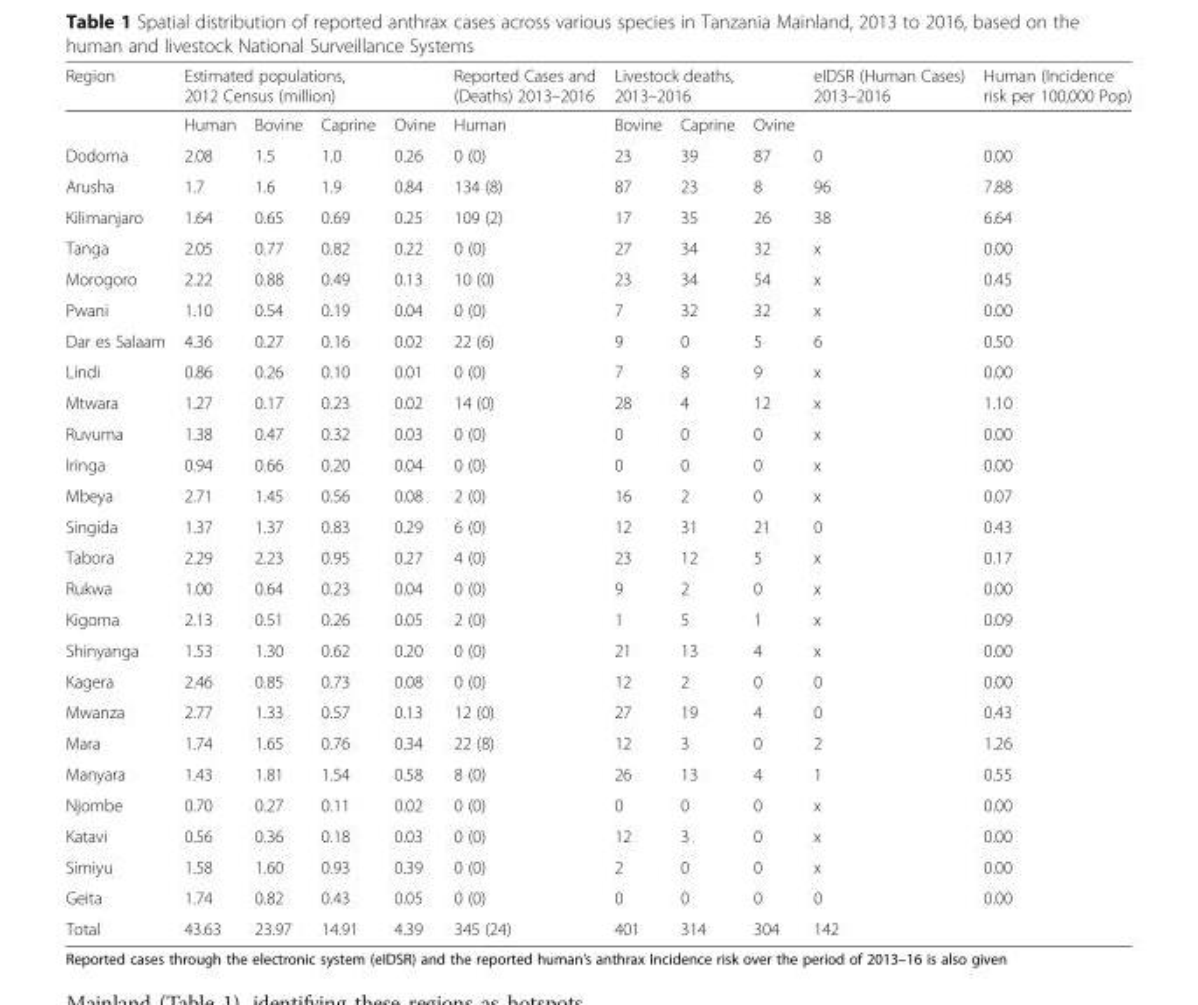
<table><thead><tr><td rowspan="2">Region</td><td colspan="4">Estimated populations, 2012 Census (million)</td><td rowspan="2">Reported Cases and (Deaths) 2013–2016 Human</td><td colspan="3">Livestock deaths, 2013–2016</td><td rowspan="2">eIDSR (Human Cases) 2013–2016</td><td rowspan="2">Human (Incidence risk per 100,000 Pop)</td></tr><tr><td>Human</td><td>Bovine</td><td>Caprine</td><td>Ovine</td><td>Bovine</td><td>Caprine</td><td>Ovine</td></tr></thead><tbody><tr><td>Dodoma</td><td>2.08</td><td>1.5</td><td>1.0</td><td>0.26</td><td>0 (0)</td><td>23</td><td>39</td><td>87</td><td>0</td><td>0.00</td></tr><tr><td>Arusha</td><td>1.7</td><td>1.6</td><td>1.9</td><td>0.84</td><td>134 (8)</td><td>87</td><td>23</td><td>8</td><td>96</td><td>7.88</td></tr><tr><td>Kilimanjaro</td><td>1.64</td><td>0.65</td><td>0.69</td><td>0.25</td><td>109 (2)</td><td>17</td><td>35</td><td>26</td><td>38</td><td>6.64</td></tr><tr><td>Tanga</td><td>2.05</td><td>0.77</td><td>0.82</td><td>0.22</td><td>0 (0)</td><td>27</td><td>34</td><td>32</td><td>x</td><td>0.00</td></tr><tr><td>Morogoro</td><td>2.22</td><td>0.88</td><td>0.49</td><td>0.13</td><td>10 (0)</td><td>23</td><td>34</td><td>54</td><td>x</td><td>0.45</td></tr><tr><td>Pwani</td><td>1.10</td><td>0.54</td><td>0.19</td><td>0.04</td><td>0 (0)</td><td>7</td><td>32</td><td>32</td><td>x</td><td>0.00</td></tr><tr><td>Dar es Salaam</td><td>4.36</td><td>0.27</td><td>0.16</td><td>0.02</td><td>22 (6)</td><td>9</td><td>0</td><td>5</td><td>6</td><td>0.50</td></tr><tr><td>Lindi</td><td>0.86</td><td>0.26</td><td>0.10</td><td>0.01</td><td>0 (0)</td><td>7</td><td>8</td><td>9</td><td>x</td><td>0.00</td></tr><tr><td>Mtwara</td><td>1.27</td><td>0.17</td><td>0.23</td><td>0.02</td><td>14 (0)</td><td>28</td><td>4</td><td>12</td><td>x</td><td>1.10</td></tr><tr><td>Ruvuma</td><td>1.38</td><td>0.47</td><td>0.32</td><td>0.03</td><td>0 (0)</td><td>0</td><td>0</td><td>0</td><td>x</td><td>0.00</td></tr><tr><td>Iringa</td><td>0.94</td><td>0.66</td><td>0.20</td><td>0.04</td><td>0 (0)</td><td>0</td><td>0</td><td>0</td><td>x</td><td>0.00</td></tr><tr><td>Mbeya</td><td>2.71</td><td>1.45</td><td>0.56</td><td>0.08</td><td>2 (0)</td><td>16</td><td>2</td><td>0</td><td>x</td><td>0.07</td></tr><tr><td>Singida</td><td>1.37</td><td>1.37</td><td>0.83</td><td>0.29</td><td>6 (0)</td><td>12</td><td>31</td><td>21</td><td>0</td><td>0.43</td></tr><tr><td>Tabora</td><td>2.29</td><td>2.23</td><td>0.95</td><td>0.27</td><td>4 (0)</td><td>23</td><td>12</td><td>5</td><td>x</td><td>0.17</td></tr><tr><td>Rukwa</td><td>1.00</td><td>0.64</td><td>0.23</td><td>0.04</td><td>0 (0)</td><td>9</td><td>2</td><td>0</td><td>x</td><td>0.00</td></tr><tr><td>Kigoma</td><td>2.13</td><td>0.51</td><td>0.26</td><td>0.05</td><td>2 (0)</td><td>1</td><td>5</td><td>1</td><td>x</td><td>0.09</td></tr><tr><td>Shinyanga</td><td>1.53</td><td>1.30</td><td>0.62</td><td>0.20</td><td>0 (0)</td><td>21</td><td>13</td><td>4</td><td>x</td><td>0.00</td></tr><tr><td>Kagera</td><td>2.46</td><td>0.85</td><td>0.73</td><td>0.08</td><td>0 (0)</td><td>12</td><td>2</td><td>0</td><td>0</td><td>0.00</td></tr><tr><td>Mwanza</td><td>2.77</td><td>1.33</td><td>0.57</td><td>0.13</td><td>12 (0)</td><td>27</td><td>19</td><td>4</td><td>0</td><td>0.43</td></tr><tr><td>Mara</td><td>1.74</td><td>1.65</td><td>0.76</td><td>0.34</td><td>22 (8)</td><td>12</td><td>3</td><td>0</td><td>2</td><td>1.26</td></tr><tr><td>Manyara</td><td>1.43</td><td>1.81</td><td>1.54</td><td>0.58</td><td>8 (0)</td><td>26</td><td>13</td><td>4</td><td>1</td><td>0.55</td></tr><tr><td>Njombe</td><td>0.70</td><td>0.27</td><td>0.11</td><td>0.02</td><td>0 (0)</td><td>0</td><td>0</td><td>0</td><td>x</td><td>0.00</td></tr><tr><td>Katavi</td><td>0.56</td><td>0.36</td><td>0.18</td><td>0.03</td><td>0 (0)</td><td>12</td><td>3</td><td>0</td><td>x</td><td>0.00</td></tr><tr><td>Simiyu</td><td>1.58</td><td>1.60</td><td>0.93</td><td>0.39</td><td>0 (0)</td><td>2</td><td>0</td><td>0</td><td>x</td><td>0.00</td></tr><tr><td>Geita</td><td>1.74</td><td>0.82</td><td>0.43</td><td>0.05</td><td>0 (0)</td><td>0</td><td>0</td><td>0</td><td>0</td><td>0.00</td></tr><tr><td>Total</td><td>43.63</td><td>23.97</td><td>14.91</td><td>4.39</td><td>345 (24)</td><td>401</td><td>314</td><td>304</td><td>142</td><td></td></tr></tbody></table>